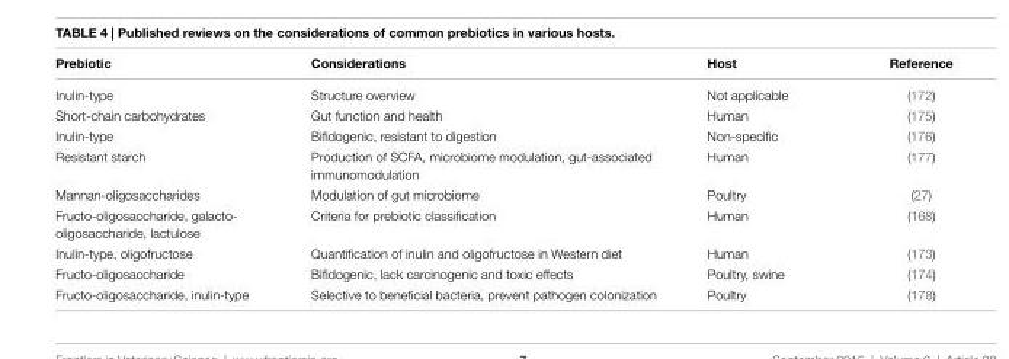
<table><thead><tr><td>Prebiotic</td><td>Considerations</td><td>Host</td><td>Reference</td></tr></thead><tbody><tr><td>Inulin-type</td><td>Structure overview</td><td>Not applicable</td><td>(172)</td></tr><tr><td>Short-chain carbohydrates</td><td>Gut function and health</td><td>Human</td><td>(175)</td></tr><tr><td>Inulin-type</td><td>Bifidogenic, resistant to digestion</td><td>Non-specific</td><td>(176)</td></tr><tr><td>Resistant starch</td><td>Production of SCFA, microbiome modulation, gut-associated immunomodulation</td><td>Human</td><td>(177)</td></tr><tr><td>Mannan-oligosaccharides</td><td>Modulation of gut microbiome</td><td>Poultry</td><td>(27)</td></tr><tr><td>Fructo-oligosaccharide, galacto- oligosaccharide, lactulose</td><td>Criteria for prebiotic classification</td><td>Human</td><td>(168)</td></tr><tr><td>Inulin-type, oligofructose</td><td>Quantification of inulin and oligofructose in Western diet</td><td>Human</td><td>(173)</td></tr><tr><td>Fructo-oligosaccharide</td><td>Bifidogenic, lack carcinogenic and toxic effects</td><td>Poultry, swine</td><td>(174)</td></tr><tr><td>Fructo-oligosaccharide, inulin-type</td><td>Selective to beneficial bacteria, prevent pathogen colonization</td><td>Poultry</td><td>(178)</td></tr></tbody></table>